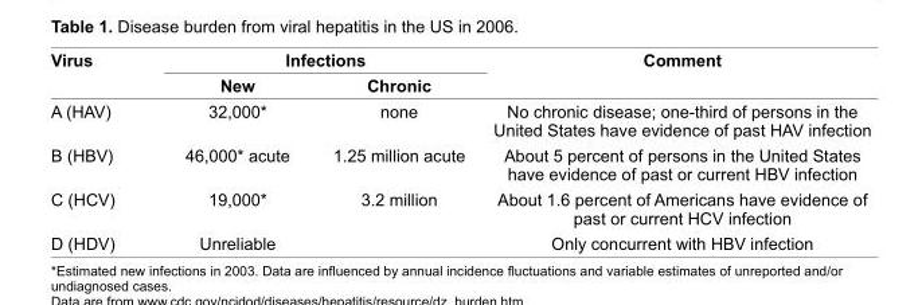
<table><thead><tr><td rowspan="2">Virus</td><td colspan="2">Infections</td><td rowspan="2">Comment</td></tr><tr><td>New</td><td>Chronic</td></tr></thead><tbody><tr><td>A (HAV)</td><td>32,000*</td><td>none</td><td>No chronic disease; one-third of persons in the United States have evidence of past HAV infection</td></tr><tr><td>B (HBV)</td><td>46,000* acute</td><td>1.25 million acute</td><td>About 5 percent of persons in the United States have evidence of past or current HBV infection</td></tr><tr><td>C (HCV)</td><td>19,000*</td><td>3.2 million</td><td>About 1.6 percent of Americans have evidence of past or current HCV infection</td></tr><tr><td>D (HDV)</td><td>Unreliable</td><td></td><td>Only concurrent with HBV infection</td></tr></tbody></table>